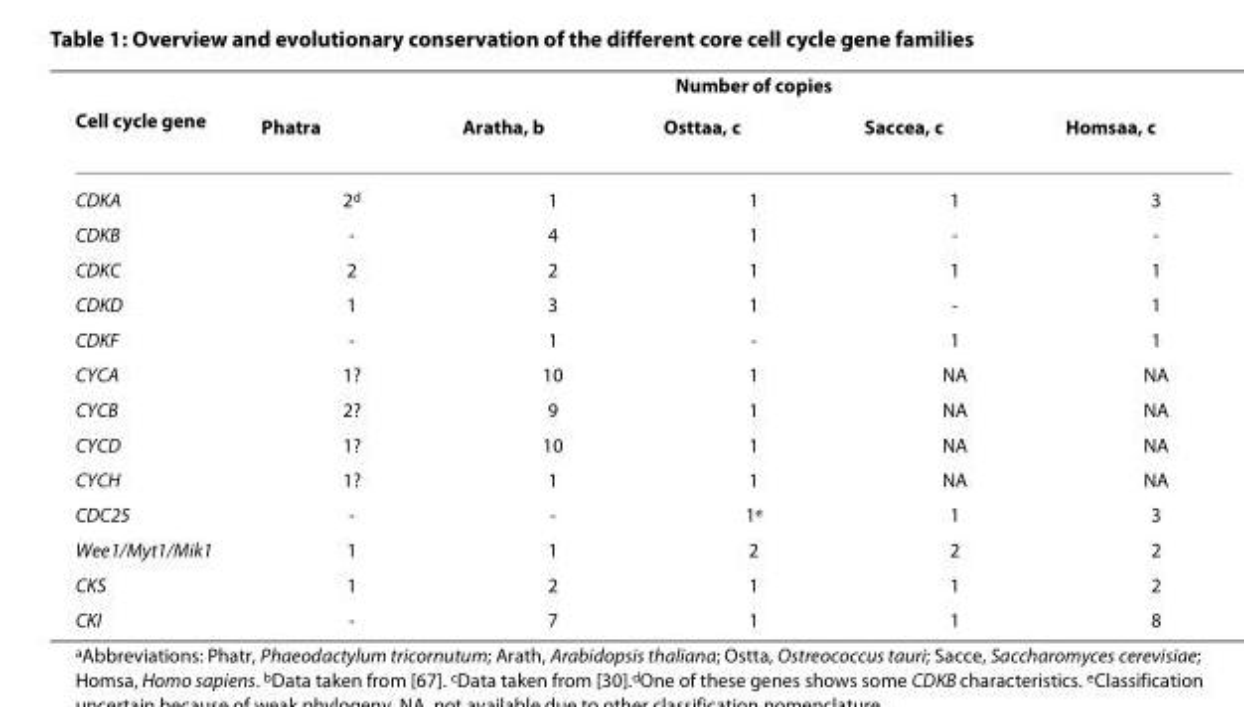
<table><thead><tr><td rowspan="2">Cell cycle gene</td><td colspan="5">Number of copies</td></tr><tr><td>Phatr<sup>a</sup></td><td>Arath<sup>a, b</sup></td><td>Ostta<sup>a, c</sup></td><td>Sacce<sup>a, c</sup></td><td>Homsa<sup>a, c</sup></td></tr></thead><tbody><tr><td>CDKA</td><td>2<sup>d</sup></td><td>1</td><td>1</td><td>1</td><td>3</td></tr><tr><td>CDKB</td><td>-</td><td>4</td><td>1</td><td>-</td><td>-</td></tr><tr><td>CDKC</td><td>2</td><td>2</td><td>1</td><td>1</td><td>1</td></tr><tr><td>CDKD</td><td>1</td><td>3</td><td>1</td><td>-</td><td>1</td></tr><tr><td>CDKF</td><td>-</td><td>1</td><td>-</td><td>1</td><td>1</td></tr><tr><td>CYCA</td><td>1?</td><td>10</td><td>1</td><td>NA</td><td>NA</td></tr><tr><td>CYCB</td><td>2?</td><td>9</td><td>1</td><td>NA</td><td>NA</td></tr><tr><td>CYCD</td><td>1?</td><td>10</td><td>1</td><td>NA</td><td>NA</td></tr><tr><td>CYCH</td><td>1?</td><td>1</td><td>1</td><td>NA</td><td>NA</td></tr><tr><td>CDC25</td><td>-</td><td>-</td><td>1<sup>e</sup></td><td>1</td><td>3</td></tr><tr><td>Wee1/Myt1/Mik1</td><td>1</td><td>1</td><td>2</td><td>2</td><td>2</td></tr><tr><td>CKS</td><td>1</td><td>2</td><td>1</td><td>1</td><td>2</td></tr><tr><td>CKI</td><td>-</td><td>7</td><td>1</td><td>1</td><td>8</td></tr></tbody></table>